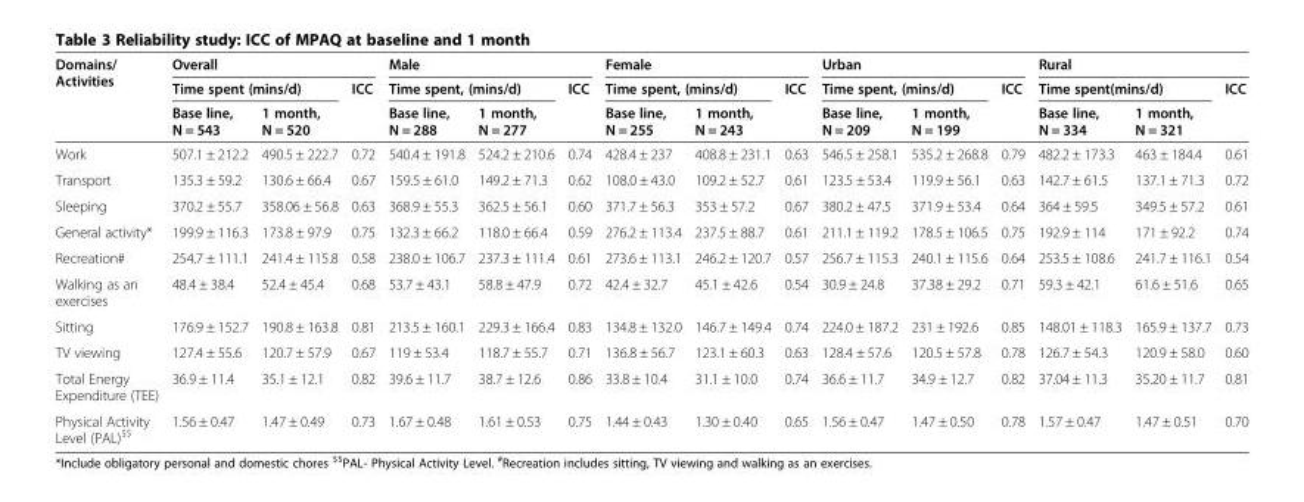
<table><thead><tr><td rowspan="3">Domains/ Activities</td><td colspan="3">Overall</td><td colspan="3">Male</td><td colspan="3">Female</td><td colspan="3">Urban</td><td colspan="3">Rural</td></tr><tr><td colspan="2">Time spent (mins/d)</td><td rowspan="2">ICC</td><td colspan="2">Time spent, (mins/d)</td><td rowspan="2">ICC</td><td colspan="2">Time spent, (mins/d)</td><td rowspan="2">ICC</td><td colspan="2">Time spent, (mins/d)</td><td rowspan="2">ICC</td><td colspan="2">Time spent(mins/d)</td><td rowspan="2">ICC</td></tr><tr><td>Base line, N = 543</td><td>1 month, N = 520</td><td>Base line, N = 288</td><td>1 month, N = 277</td><td>Base line, N = 255</td><td>1 month, N = 243</td><td>Base line, N = 209</td><td>1 month, N = 199</td><td>Base line, N = 334</td><td>1 month, N = 321</td></tr></thead><tbody><tr><td>Work</td><td>507.1 ± 212.2</td><td>490.5 ± 222.7</td><td>0.72</td><td>540.4 ± 191.8</td><td>524.2 ± 210.6</td><td>0.74</td><td>428.4 ± 237</td><td>408.8 ± 231.1</td><td>0.63</td><td>546.5 ± 258.1</td><td>535.2 ± 268.8</td><td>0.79</td><td>482.2 ± 173.3</td><td>463 ± 184.4</td><td>0.61</td></tr><tr><td>Transport</td><td>135.3 ± 59.2</td><td>130.6 ± 66.4</td><td>0.67</td><td>159.5 ± 61.0</td><td>149.2 ± 71.3</td><td>0.62</td><td>108.0 ± 43.0</td><td>109.2 ± 52.7</td><td>0.61</td><td>123.5 ± 53.4</td><td>119.9 ± 56.1</td><td>0.63</td><td>142.7 ± 61.5</td><td>137.1 ± 71.3</td><td>0.72</td></tr><tr><td>Sleeping</td><td>370.2 ± 55.7</td><td>358.06 ± 56.8</td><td>0.63</td><td>368.9 ± 55.3</td><td>362.5 ± 56.1</td><td>0.60</td><td>371.7 ± 56.3</td><td>353 ± 57.2</td><td>0.67</td><td>380.2 ± 47.5</td><td>371.9 ± 53.4</td><td>0.64</td><td>364 ± 59.5</td><td>349.5 ± 57.2</td><td>0.61</td></tr><tr><td>General activity*</td><td>199.9 ± 116.3</td><td>173.8 ± 97.9</td><td>0.75</td><td>132.3 ± 66.2</td><td>118.0 ± 66.4</td><td>0.59</td><td>276.2 ± 113.4</td><td>237.5 ± 88.7</td><td>0.61</td><td>211.1 ± 119.2</td><td>178.5 ± 106.5</td><td>0.75</td><td>192.9 ± 114</td><td>171 ± 92.2</td><td>0.74</td></tr><tr><td>Recreation#</td><td>254.7 ± 111.1</td><td>241.4 ± 115.8</td><td>0.58</td><td>238.0 ± 106.7</td><td>237.3 ± 111.4</td><td>0.61</td><td>273.6 ± 113.1</td><td>246.2 ± 120.7</td><td>0.57</td><td>256.7 ± 115.3</td><td>240.1 ± 115.6</td><td>0.64</td><td>253.5 ± 108.6</td><td>241.7 ± 116.1</td><td>0.54</td></tr><tr><td>Walking as an exercises</td><td>48.4 ± 38.4</td><td>52.4 ± 45.4</td><td>0.68</td><td>53.7 ± 43.1</td><td>58.8 ± 47.9</td><td>0.72</td><td>42.4 ± 32.7</td><td>45.1 ± 42.6</td><td>0.54</td><td>30.9 ± 24.8</td><td>37.38 ± 29.2</td><td>0.71</td><td>59.3 ± 42.1</td><td>61.6 ± 51.6</td><td>0.65</td></tr><tr><td>Sitting</td><td>176.9 ± 152.7</td><td>190.8 ± 163.8</td><td>0.81</td><td>213.5 ± 160.1</td><td>229.3 ± 166.4</td><td>0.83</td><td>134.8 ± 132.0</td><td>146.7 ± 149.4</td><td>0.74</td><td>224.0 ± 187.2</td><td>231 ± 192.6</td><td>0.85</td><td>148.01 ± 118.3</td><td>165.9 ± 137.7</td><td>0.73</td></tr><tr><td>TV viewing</td><td>127.4 ± 55.6</td><td>120.7 ± 57.9</td><td>0.67</td><td>119 ± 53.4</td><td>118.7 ± 55.7</td><td>0.71</td><td>136.8 ± 56.7</td><td>123.1 ± 60.3</td><td>0.63</td><td>128.4 ± 57.6</td><td>120.5 ± 57.8</td><td>0.78</td><td>126.7 ± 54.3</td><td>120.9 ± 58.0</td><td>0.60</td></tr><tr><td>Total Energy Expenditure (TEE)</td><td>36.9 ± 11.4</td><td>35.1 ± 12.1</td><td>0.82</td><td>39.6 ± 11.7</td><td>38.7 ± 12.6</td><td>0.86</td><td>33.8 ± 10.4</td><td>31.1 ± 10.0</td><td>0.74</td><td>36.6 ± 11.7</td><td>34.9 ± 12.7</td><td>0.82</td><td>37.04 ± 11.3</td><td>35.20 ± 11.7</td><td>0.81</td></tr><tr><td>Physical Activity Level (PAL)<sup>$$</sup></td><td>1.56 ± 0.47</td><td>1.47 ± 0.49</td><td>0.73</td><td>1.67 ± 0.48</td><td>1.61 ± 0.53</td><td>0.75</td><td>1.44 ± 0.43</td><td>1.30 ± 0.40</td><td>0.65</td><td>1.56 ± 0.47</td><td>1.47 ± 0.50</td><td>0.78</td><td>1.57 ± 0.47</td><td>1.47 ± 0.51</td><td>0.70</td></tr></tbody></table>